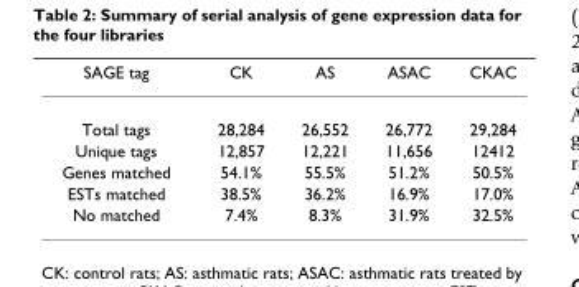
<table><thead><tr><td>SAGE tag</td><td>CK</td><td>AS</td><td>ASAC</td><td>CKAC</td></tr></thead><tbody><tr><td>Total tags</td><td>28,284</td><td>26,552</td><td>26,772</td><td>29,284</td></tr><tr><td>Unique tags</td><td>12,857</td><td>12,221</td><td>11,656</td><td>12412</td></tr><tr><td>Genes matched</td><td>54.1%</td><td>55.5%</td><td>51.2%</td><td>50.5%</td></tr><tr><td>ESTs matched</td><td>38.5%</td><td>36.2%</td><td>16.9%</td><td>17.0%</td></tr><tr><td>No matched</td><td>7.4%</td><td>8.3%</td><td>31.9%</td><td>32.5%</td></tr></tbody></table>